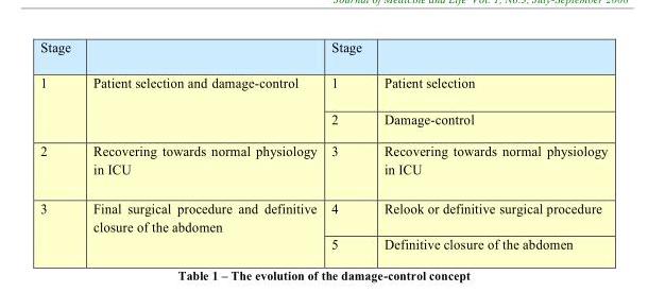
<table><thead><tr><td>Stage</td><td></td><td>Stage</td><td></td></tr></thead><tbody><tr><td rowspan="2">1</td><td>Patient selection and damage-control</td><td>1</td><td>Patient selection</td></tr><tr><td></td><td>2</td><td>Damage-control</td></tr><tr><td>2</td><td>Recovering towards normal physiology in ICU</td><td>3</td><td>Recovering towards normal physiology in ICU</td></tr><tr><td rowspan="2">3</td><td>Final surgical procedure and definitive closure of the abdomen</td><td>4</td><td>Relook or definitive surgical procedure</td></tr><tr><td></td><td>5</td><td>Definitive closure of the abdomen</td></tr></tbody></table>